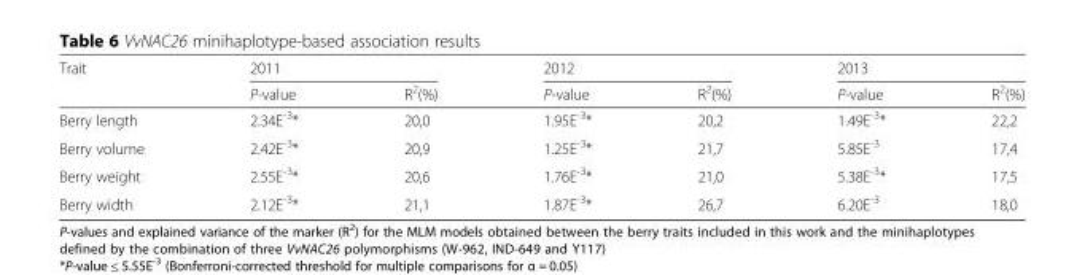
<table><thead><tr><td rowspan="2">Trait</td><td colspan="2">2011</td><td colspan="2">2012</td><td colspan="2">2013</td></tr><tr><td>P-value</td><td>R<sup>2</sup>(%)</td><td>P-value</td><td>R<sup>2</sup>(%)</td><td>P-value</td><td>R<sup>2</sup>(%)</td></tr></thead><tbody><tr><td>Berry length</td><td>2.34E<sup>-3</sup>*</td><td>20,0</td><td>1.95E<sup>-3</sup>*</td><td>20,2</td><td>1.49E<sup>-3</sup>*</td><td>22,2</td></tr><tr><td>Berry volume</td><td>2.42E<sup>-3</sup>*</td><td>20,9</td><td>1.25E<sup>-3</sup>*</td><td>21,7</td><td>5.85E<sup>-3</sup></td><td>17,4</td></tr><tr><td>Berry weight</td><td>2.55E<sup>-3</sup>*</td><td>20,6</td><td>1.76E<sup>-3</sup>*</td><td>21,0</td><td>5.38E<sup>-3</sup>*</td><td>17,5</td></tr><tr><td>Berry width</td><td>2.12E<sup>-3</sup>*</td><td>21,1</td><td>1.87E<sup>-3</sup>*</td><td>26,7</td><td>6.20E<sup>-3</sup></td><td>18,0</td></tr></tbody></table>